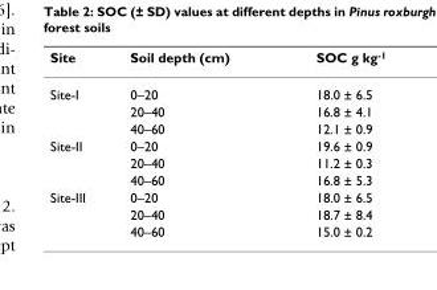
<table><thead><tr><td>Site</td><td>Soil depth (cm)</td><td>SOC g kg<sup>-1</sup></td></tr></thead><tbody><tr><td rowspan="3">Site-I</td><td>0–20</td><td>18.0 ± 6.5</td></tr><tr><td>20–40</td><td>16.8 ± 4.1</td></tr><tr><td>40–60</td><td>12.1 ± 0.9</td></tr><tr><td rowspan="3">Site-II</td><td>0–20</td><td>19.6 ± 0.9</td></tr><tr><td>20–40</td><td>11.2 ± 0.3</td></tr><tr><td>40–60</td><td>16.8 ± 5.3</td></tr><tr><td rowspan="3">Site-III</td><td>0–20</td><td>18.0 ± 6.5</td></tr><tr><td>20–40</td><td>18.7 ± 8.4</td></tr><tr><td>40–60</td><td>15.0 ± 0.2</td></tr></tbody></table>